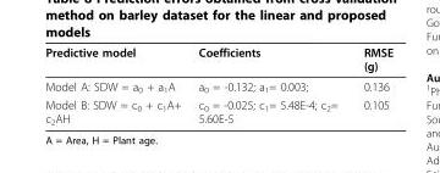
<table><thead><tr><td>Predictive model</td><td>Coefficients</td><td>RMSE (g)</td></tr></thead><tbody><tr><td>Model A: SDW = a<sub>0</sub> + a<sub>1</sub>A</td><td>a<sub>0</sub> = -0.132; a<sub>1</sub>= 0.003;</td><td>0.136</td></tr><tr><td>Model B: SDW = c<sub>0</sub> + c<sub>1</sub>A+ c<sub>2</sub>AH</td><td>c<sub>0</sub> = -0.025; c<sub>1</sub>= 5.48E-4; c<sub>2</sub>= 5.60E-5</td><td>0.105</td></tr></tbody></table>